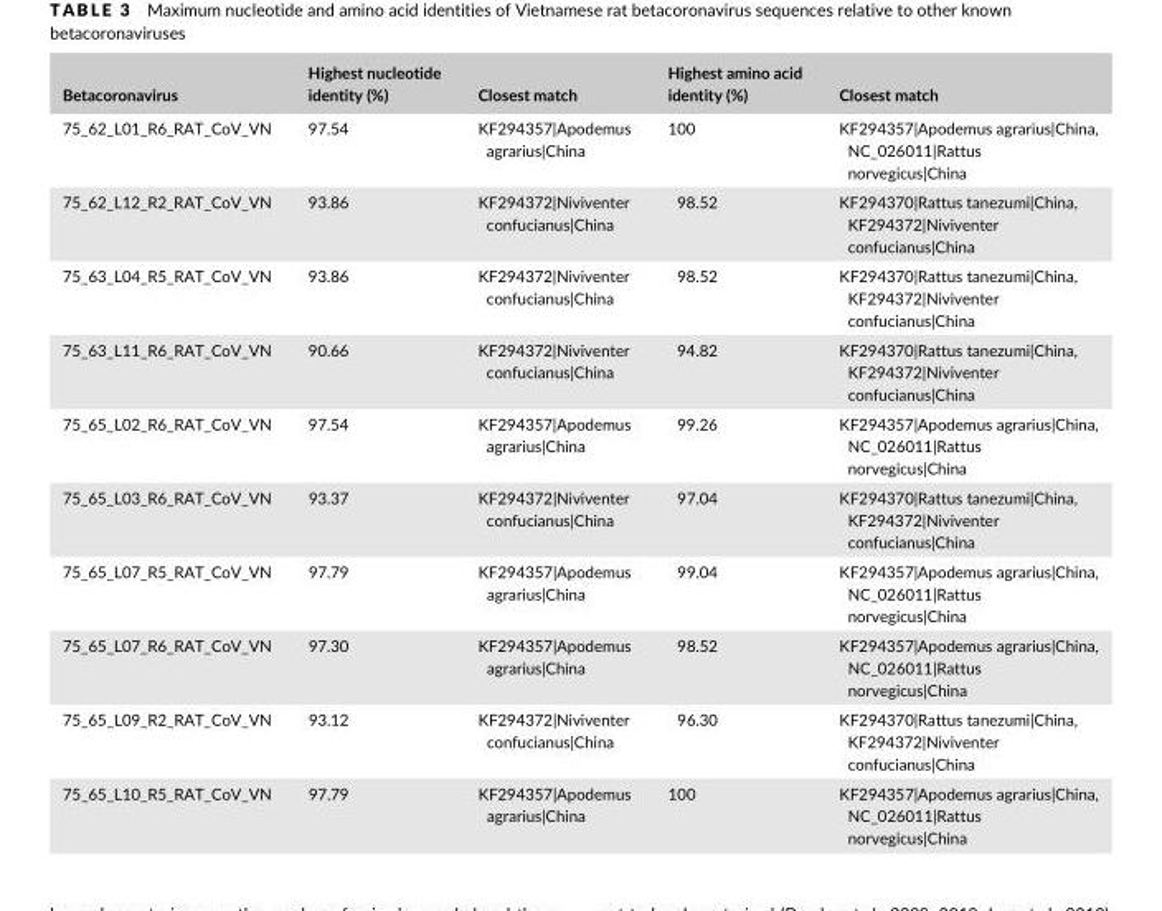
<table><thead><tr><td>Betacoronavirus</td><td>Highest nucleotide identity (%)</td><td>Closest match</td><td>Highest amino acid identity (%)</td><td>Closest match</td></tr></thead><tbody><tr><td>75_62_L01_R6_RAT_CoV_VN</td><td>97.54</td><td>KF294357|Apodemus agrarius|China</td><td>100</td><td>KF294357|Apodemus agrarius|China, NC_026011|Rattus norvegicus|China</td></tr><tr><td>75_62_L12_R2_RAT_CoV_VN</td><td>93.86</td><td>KF294372|Niviventer confucianus|China</td><td>98.52</td><td>KF294370|Rattus tanezumi|China, KF294372|Niviventer confucianus|China</td></tr><tr><td>75_63_L04_R5_RAT_CoV_VN</td><td>93.86</td><td>KF294372|Niviventer confucianus|China</td><td>98.52</td><td>KF294370|Rattus tanezumi|China, KF294372|Niviventer confucianus|China</td></tr><tr><td>75_63_L11_R6_RAT_CoV_VN</td><td>90.66</td><td>KF294372|Niviventer confucianus|China</td><td>94.82</td><td>KF294370|Rattus tanezumi|China, KF294372|Niviventer confucianus|China</td></tr><tr><td>75_65_L02_R6_RAT_CoV_VN</td><td>97.54</td><td>KF294357|Apodemus agrarius|China</td><td>99.26</td><td>KF294357|Apodemus agrarius|China, NC_026011|Rattus norvegicus|China</td></tr><tr><td>75_65_L03_R6_RAT_CoV_VN</td><td>93.37</td><td>KF294372|Niviventer confucianus|China</td><td>97.04</td><td>KF294370|Rattus tanezumi|China, KF294372|Niviventer confucianus|China</td></tr><tr><td>75_65_L07_R5_RAT_CoV_VN</td><td>97.79</td><td>KF294357|Apodemus agrarius|China</td><td>99.04</td><td>KF294357|Apodemus agrarius|China, NC_026011|Rattus norvegicus|China</td></tr><tr><td>75_65_L07_R6_RAT_CoV_VN</td><td>97.30</td><td>KF294357|Apodemus agrarius|China</td><td>98.52</td><td>KF294357|Apodemus agrarius|China, NC_026011|Rattus norvegicus|China</td></tr><tr><td>75_65_L09_R2_RAT_CoV_VN</td><td>93.12</td><td>KF294372|Niviventer confucianus|China</td><td>96.30</td><td>KF294370|Rattus tanezumi|China, KF294372|Niviventer confucianus|China</td></tr><tr><td>75_65_L10_R5_RAT_CoV_VN</td><td>97.79</td><td>KF294357|Apodemus agrarius|China</td><td>100</td><td>KF294357|Apodemus agrarius|China, NC_026011|Rattus norvegicus|China</td></tr></tbody></table>